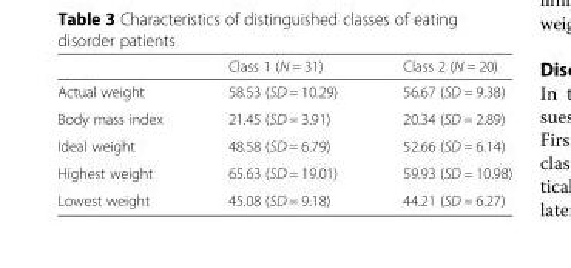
<table><thead><tr><td></td><td>Class 1 (N = 31)</td><td>Class 2 (N = 20)</td></tr></thead><tbody><tr><td>Actual weight</td><td>58.53 (SD = 10.29)</td><td>56.67 (SD = 9.38)</td></tr><tr><td>Body mass index</td><td>21.45 (SD = 3.91)</td><td>20.34 (SD = 2.89)</td></tr><tr><td>Ideal weight</td><td>48.58 (SD = 6.79)</td><td>52.66 (SD = 6.14)</td></tr><tr><td>Highest weight</td><td>65.63 (SD = 19.01)</td><td>59.93 (SD = 10.98)</td></tr><tr><td>Lowest weight</td><td>45.08 (SD = 9.18)</td><td>44.21 (SD = 6.27)</td></tr></tbody></table>